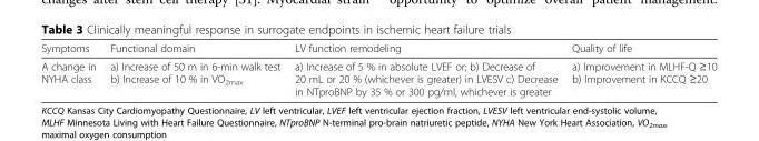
<table><thead><tr><td>Symptoms</td><td>Functional domain</td><td>LV function remodeling</td><td>Quality of life</td></tr></thead><tbody><tr><td>A change in NYHA class</td><td>a) Increase of 50 m in 6-min walk test b) Increase of 10 % in VO<sub>2max</sub></td><td>a) Increase of 5 % in absolute LVEF or; b) Decrease of 20 mL or 20 % (whichever is greater) in LVESV c) Decrease in NTproBNP by 35 % or 300 pg/ml, whichever is greater</td><td>a) Improvement in MLHF-Q ≥10 b) Improvement in KCCQ ≥20</td></tr></tbody></table>